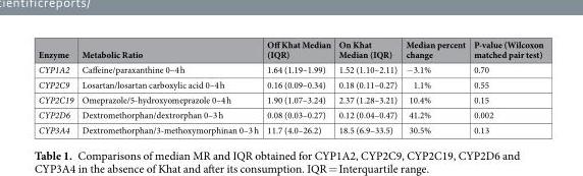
<table><thead><tr><td>Enzyme</td><td>Metabolic Ratio</td><td>Off Khat Median (IQR)</td><td>On Khat Median (IQR)</td><td>Median percent change</td><td>P-value (Wilcoxon matched pair test)</td></tr></thead><tbody><tr><td>CYP1A2</td><td>Caffeine/paraxanthine 0–4 h</td><td>1.64 (1.19–1.99)</td><td>1.52 (1.10–2.11)</td><td>−3.1%</td><td>0.70</td></tr><tr><td>CYP2C9</td><td>Losartan/losartan carboxylic acid 0–4 h</td><td>0.16 (0.09–0.34)</td><td>0.18 (0.11–0.27)</td><td>1.1%</td><td>0.55</td></tr><tr><td>CYP2C19</td><td>Omeprazole/5-hydroxyomeprazole 0–4 h</td><td>1.90 (1.07–3.24)</td><td>2.37 (1.28–3.21)</td><td>10.4%</td><td>0.15</td></tr><tr><td>CYP2D6</td><td>Dextromethorphan/dextrorphan 0–3 h</td><td>0.08 (0.03–0.27)</td><td>0.12 (0.04–0.47)</td><td>41.2%</td><td>0.002</td></tr><tr><td>CYP3A4</td><td>Dextromethorphan/3-methoxymorphinan 0–3 h</td><td>11.7 (4.0–26.2)</td><td>18.5 (6.9–33.5)</td><td>30.5%</td><td>0.13</td></tr></tbody></table>